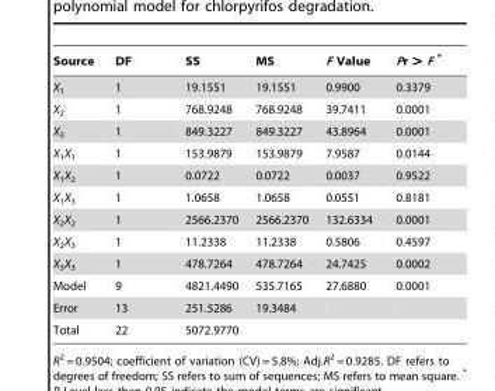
<table><thead><tr><td>Source</td><td>DF</td><td>SS</td><td>MS</td><td>F Value</td><td>Pr &gt; F *</td></tr></thead><tbody><tr><td>X<sub>1</sub></td><td>1</td><td>19.1551</td><td>19.1551</td><td>0.9900</td><td>0.3379</td></tr><tr><td>X<sub>2</sub></td><td>1</td><td>768.9248</td><td>768.9248</td><td>39.7411</td><td>0.0001</td></tr><tr><td>X<sub>3</sub></td><td>1</td><td>849.3227</td><td>849.3227</td><td>43.8964</td><td>0.0001</td></tr><tr><td>X<sub>1</sub>X<sub>1</sub></td><td>1</td><td>153.9879</td><td>153.9879</td><td>7.9587</td><td>0.0144</td></tr><tr><td>X<sub>1</sub>X<sub>2</sub></td><td>1</td><td>0.0722</td><td>0.0722</td><td>0.0037</td><td>0.9522</td></tr><tr><td>X<sub>1</sub>X<sub>3</sub></td><td>1</td><td>1.0658</td><td>1.0658</td><td>0.0551</td><td>0.8181</td></tr><tr><td>X<sub>2</sub>X<sub>2</sub></td><td>1</td><td>2566.2370</td><td>2566.2370</td><td>132.6334</td><td>0.0001</td></tr><tr><td>X<sub>2</sub>X<sub>3</sub></td><td>1</td><td>11.2338</td><td>11.2338</td><td>0.5806</td><td>0.4597</td></tr><tr><td>X<sub>3</sub>X<sub>3</sub></td><td>1</td><td>478.7264</td><td>478.7264</td><td>24.7425</td><td>0.0002</td></tr><tr><td>Model</td><td>9</td><td>4821.4490</td><td>535.7165</td><td>27.6880</td><td>0.0001</td></tr><tr><td>Error</td><td>13</td><td>251.5286</td><td>19.3484</td><td></td><td></td></tr><tr><td>Total</td><td>22</td><td>5072.9770</td><td></td><td></td><td></td></tr></tbody></table>